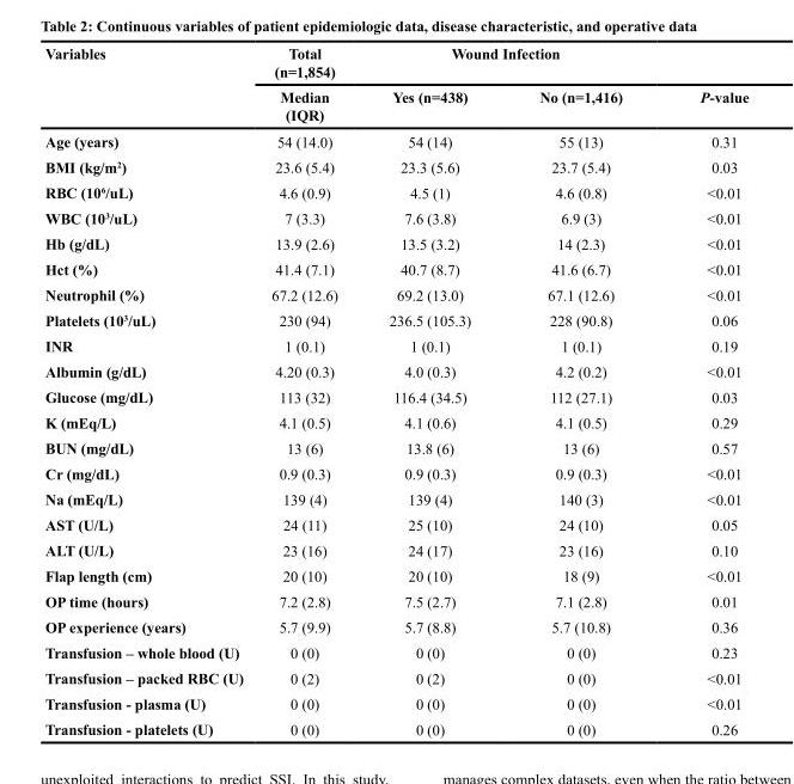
<table><thead><tr><td rowspan="2">Variables</td><td rowspan="2">Total (n=1,854) Median (IQR)</td><td colspan="2">Wound Infection</td><td rowspan="2">P-value</td></tr><tr><td>Yes (n=438)</td><td>No (n=1,416)</td></tr></thead><tbody><tr><td>Age (years)</td><td>54 (14.0)</td><td>54 (14)</td><td>55 (13)</td><td>0.31</td></tr><tr><td>BMI (kg/m<sup>2</sup>)</td><td>23.6 (5.4)</td><td>23.3 (5.6)</td><td>23.7 (5.4)</td><td>0.03</td></tr><tr><td>RBC (10<sup>6</sup>/uL)</td><td>4.6 (0.9)</td><td>4.5 (1)</td><td>4.6 (0.8)</td><td>&lt;0.01</td></tr><tr><td>WBC (10<sup>3</sup>/uL)</td><td>7 (3.3)</td><td>7.6 (3.8)</td><td>6.9 (3)</td><td>&lt;0.01</td></tr><tr><td>Hb (g/dL)</td><td>13.9 (2.6)</td><td>13.5 (3.2)</td><td>14 (2.3)</td><td>&lt;0.01</td></tr><tr><td>Hct (%)</td><td>41.4 (7.1)</td><td>40.7 (8.7)</td><td>41.6 (6.7)</td><td>&lt;0.01</td></tr><tr><td>Neutrophil (%)</td><td>67.2 (12.6)</td><td>69.2 (13.0)</td><td>67.1 (12.6)</td><td>&lt;0.01</td></tr><tr><td>Platelets (10<sup>3</sup>/uL)</td><td>230 (94)</td><td>236.5 (105.3)</td><td>228 (90.8)</td><td>0.06</td></tr><tr><td>INR</td><td>1 (0.1)</td><td>1 (0.1)</td><td>1 (0.1)</td><td>0.19</td></tr><tr><td>Albumin (g/dL)</td><td>4.20 (0.3)</td><td>4.0 (0.3)</td><td>4.2 (0.2)</td><td>&lt;0.01</td></tr><tr><td>Glucose (mg/dL)</td><td>113 (32)</td><td>116.4 (34.5)</td><td>112 (27.1)</td><td>0.03</td></tr><tr><td>K (mEq/L)</td><td>4.1 (0.5)</td><td>4.1 (0.6)</td><td>4.1 (0.5)</td><td>0.29</td></tr><tr><td>BUN (mg/dL)</td><td>13 (6)</td><td>13.8 (6)</td><td>13 (6)</td><td>0.57</td></tr><tr><td>Cr (mg/dL)</td><td>0.9 (0.3)</td><td>0.9 (0.3)</td><td>0.9 (0.3)</td><td>&lt;0.01</td></tr><tr><td>Na (mEq/L)</td><td>139 (4)</td><td>139 (4)</td><td>140 (3)</td><td>&lt;0.01</td></tr><tr><td>AST (U/L)</td><td>24 (11)</td><td>25 (10)</td><td>24 (10)</td><td>0.05</td></tr><tr><td>ALT (U/L)</td><td>23 (16)</td><td>24 (17)</td><td>23 (16)</td><td>0.10</td></tr><tr><td>Flap length (cm)</td><td>20 (10)</td><td>20 (10)</td><td>18 (9)</td><td>&lt;0.01</td></tr><tr><td>OP time (hours)</td><td>7.2 (2.8)</td><td>7.5 (2.7)</td><td>7.1 (2.8)</td><td>0.01</td></tr><tr><td>OP experience (years)</td><td>5.7 (9.9)</td><td>5.7 (8.8)</td><td>5.7 (10.8)</td><td>0.36</td></tr><tr><td>Transfusion – whole blood (U)</td><td>0 (0)</td><td>0 (0)</td><td>0 (0)</td><td>0.23</td></tr><tr><td>Transfusion – packed RBC (U)</td><td>0 (2)</td><td>0 (2)</td><td>0 (0)</td><td>&lt;0.01</td></tr><tr><td>Transfusion - plasma (U)</td><td>0 (0)</td><td>0 (0)</td><td>0 (0)</td><td>&lt;0.01</td></tr><tr><td>Transfusion - platelets (U)</td><td>0 (0)</td><td>0 (0)</td><td>0 (0)</td><td>0.26</td></tr></tbody></table>